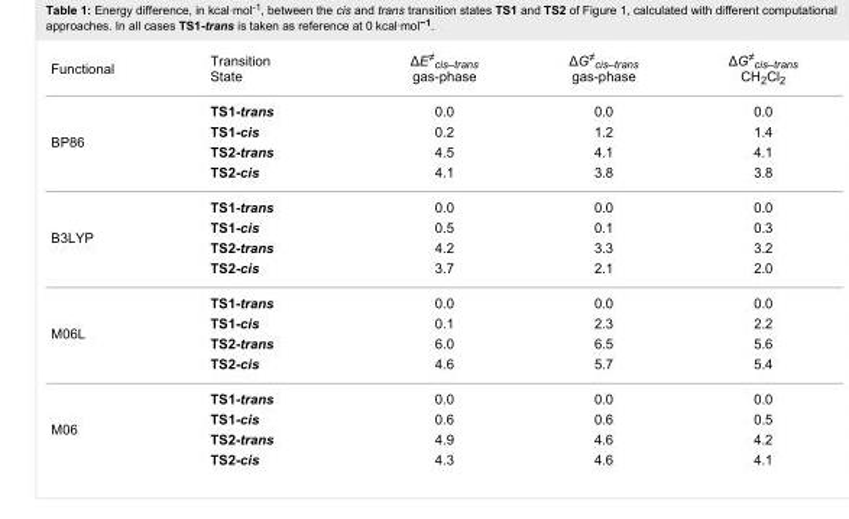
<table><tbody><tr><td>Functional</td><td>Transition State</td><td>ΔE<sup>≠</sup><sub>cis–trans</sub> gas-phase</td><td>ΔG<sup>≠</sup><sub>cis–trans</sub> gas-phase</td><td>ΔG<sup>≠</sup><sub>cis–trans</sub> CH<sub>2</sub>Cl<sub>2</sub></td></tr><tr><td rowspan="4">BP86</td><td>TS1-trans</td><td>0.0</td><td>0.0</td><td>0.0</td></tr><tr><td>TS1-cis</td><td>0.2</td><td>1.2</td><td>1.4</td></tr><tr><td>TS2-trans</td><td>4.5</td><td>4.1</td><td>4.1</td></tr><tr><td>TS2-cis</td><td>4.1</td><td>3.8</td><td>3.8</td></tr><tr><td rowspan="4">B3LYP</td><td>TS1-trans</td><td>0.0</td><td>0.0</td><td>0.0</td></tr><tr><td>TS1-cis</td><td>0.5</td><td>0.1</td><td>0.3</td></tr><tr><td>TS2-trans</td><td>4.2</td><td>3.3</td><td>3.2</td></tr><tr><td>TS2-cis</td><td>3.7</td><td>2.1</td><td>2.0</td></tr><tr><td rowspan="4">M06L</td><td>TS1-trans</td><td>0.0</td><td>0.0</td><td>0.0</td></tr><tr><td>TS1-cis</td><td>0.1</td><td>2.3</td><td>2.2</td></tr><tr><td>TS2-trans</td><td>6.0</td><td>6.5</td><td>5.6</td></tr><tr><td>TS2-cis</td><td>4.6</td><td>5.7</td><td>5.4</td></tr><tr><td rowspan="4">M06</td><td>TS1-trans</td><td>0.0</td><td>0.0</td><td>0.0</td></tr><tr><td>TS1-cis</td><td>0.6</td><td>0.6</td><td>0.5</td></tr><tr><td>TS2-trans</td><td>4.9</td><td>4.6</td><td>4.2</td></tr><tr><td>TS2-cis</td><td>4.3</td><td>4.6</td><td>4.1</td></tr></tbody></table>